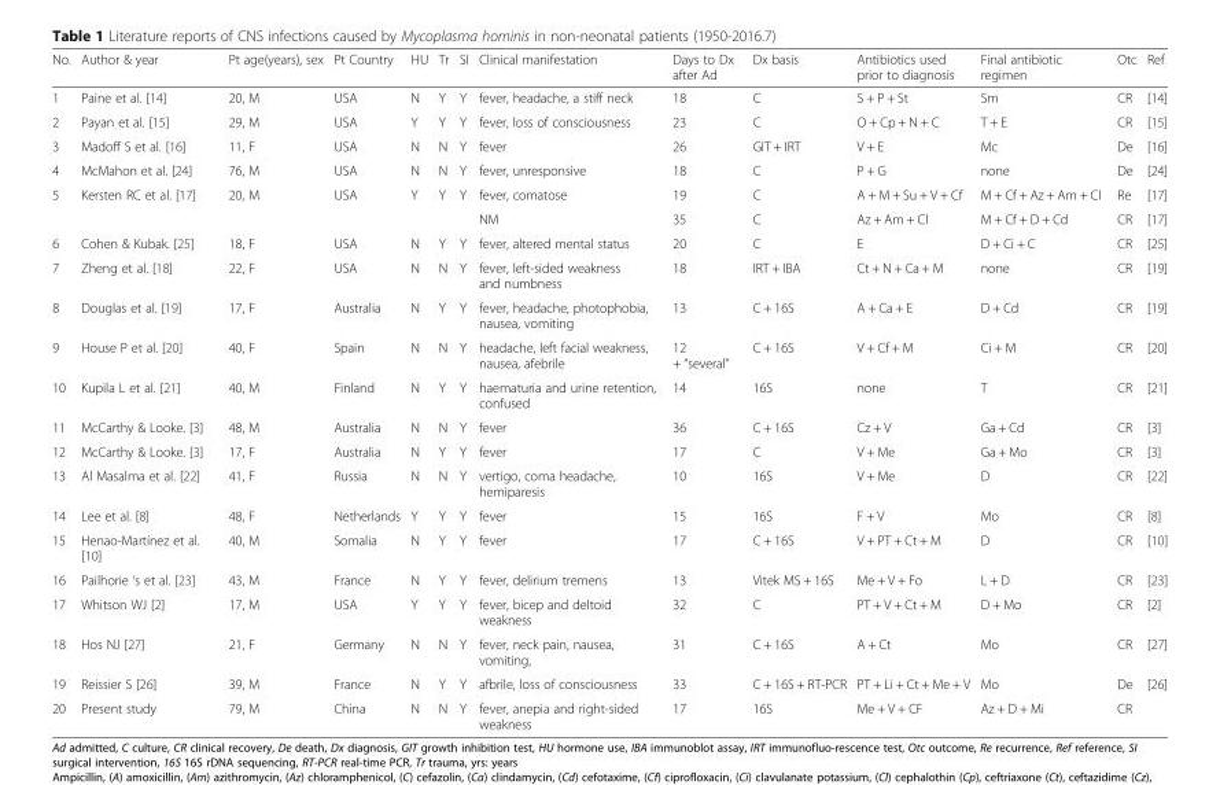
<table><thead><tr><td>No.</td><td>Author &amp; year</td><td>Pt age(years), sex</td><td>Pt Country</td><td>HU</td><td>Tr</td><td>SI</td><td>Clinical manifestation</td><td>Days to Dx after Ad</td><td>Dx basis</td><td>Antibiotics used prior to diagnosis</td><td>Final antibiotic regimen</td><td>Otc</td><td>Ref</td></tr></thead><tbody><tr><td>1</td><td>Paine et al. [14]</td><td>20, M</td><td>USA</td><td>N</td><td>Y</td><td>Y</td><td>fever, headache, a stiff neck</td><td>18</td><td>C</td><td>S + P + St</td><td>Sm</td><td>CR</td><td>[14]</td></tr><tr><td>2</td><td>Payan et al. [15]</td><td>29, M</td><td>USA</td><td>Y</td><td>Y</td><td>Y</td><td>fever, loss of consciousness</td><td>23</td><td>C</td><td>O + Cp + N + C</td><td>T + E</td><td>CR</td><td>[15]</td></tr><tr><td>3</td><td>Madoff S et al. [16]</td><td>11, F</td><td>USA</td><td>N</td><td>N</td><td>Y</td><td>fever</td><td>26</td><td>GIT + IRT</td><td>V + E</td><td>Mc</td><td>De</td><td>[16]</td></tr><tr><td>4</td><td>McMahon et al. [24]</td><td>76, M</td><td>USA</td><td>N</td><td>N</td><td>Y</td><td>fever, unresponsive</td><td>18</td><td>C</td><td>P + G</td><td>none</td><td>De</td><td>[24]</td></tr><tr><td rowspan="2">5</td><td>Kersten RC et al. [17]</td><td>20, M</td><td>USA</td><td>Y</td><td>Y</td><td>Y</td><td>fever, comatose</td><td>19</td><td>C</td><td>A + M + Su + V + Cf</td><td>M + Cf + Az + Am + Cl</td><td>Re</td><td>[17]</td></tr><tr><td></td><td></td><td></td><td></td><td></td><td></td><td>NM</td><td>35</td><td>C</td><td>Az + Am + Cl</td><td>M + Cf + D + Cd</td><td>CR</td><td>[17]</td></tr><tr><td>6</td><td>Cohen &amp; Kubak. [25]</td><td>18, F</td><td>USA</td><td>N</td><td>Y</td><td>Y</td><td>fever, altered mental status</td><td>20</td><td>C</td><td>E</td><td>D + Ci + C</td><td>CR</td><td>[25]</td></tr><tr><td>7</td><td>Zheng et al. [18]</td><td>22, F</td><td>USA</td><td>N</td><td>N</td><td>Y</td><td>fever, left-sided weakness and numbness</td><td>18</td><td>IRT + IBA</td><td>Ct + N + Ca + M</td><td>none</td><td>CR</td><td>[19]</td></tr><tr><td>8</td><td>Douglas et al. [19]</td><td>17, F</td><td>Australia</td><td>N</td><td>Y</td><td>Y</td><td>fever, headache, photophobia, nausea, vomiting</td><td>13</td><td>C + 16S</td><td>A + Ca + E</td><td>D + Cd</td><td>CR</td><td>[19]</td></tr><tr><td>9</td><td>House P et al. [20]</td><td>40, F</td><td>Spain</td><td>N</td><td>N</td><td>Y</td><td>headache, left facial weakness, nausea, afebrile</td><td>12 + “several”</td><td>C + 16S</td><td>V + Cf + M</td><td>Ci + M</td><td>CR</td><td>[20]</td></tr><tr><td>10</td><td>Kupila L et al. [21]</td><td>40, M</td><td>Finland</td><td>N</td><td>Y</td><td>Y</td><td>haematuria and urine retention, confused</td><td>14</td><td>16S</td><td>none</td><td>T</td><td>CR</td><td>[21]</td></tr><tr><td>11</td><td>McCarthy &amp; Looke. [3]</td><td>48, M</td><td>Australia</td><td>N</td><td>N</td><td>Y</td><td>fever</td><td>36</td><td>C + 16S</td><td>Cz + V</td><td>Ga + Cd</td><td>CR</td><td>[3]</td></tr><tr><td>12</td><td>McCarthy &amp; Looke. [3]</td><td>17, F</td><td>Australia</td><td>N</td><td>Y</td><td>Y</td><td>fever</td><td>17</td><td>C</td><td>V + Me</td><td>Ga + Mo</td><td>CR</td><td>[3]</td></tr><tr><td>13</td><td>Al Masalma et al. [22]</td><td>41, F</td><td>Russia</td><td>N</td><td>N</td><td>Y</td><td>vertigo, coma headache, hemiparesis</td><td>10</td><td>16S</td><td>V + Me</td><td>D</td><td>CR</td><td>[22]</td></tr><tr><td>14</td><td>Lee et al. [8]</td><td>48, F</td><td>Netherlands</td><td>Y</td><td>Y</td><td>Y</td><td>fever</td><td>15</td><td>16S</td><td>F + V</td><td>Mo</td><td>CR</td><td>[8]</td></tr><tr><td>15</td><td>Henao-Martínez et al. [10]</td><td>40, M</td><td>Somalia</td><td>N</td><td>Y</td><td>Y</td><td>fever</td><td>17</td><td>C + 16S</td><td>V + PT + Ct + M</td><td>D</td><td>CR</td><td>[10]</td></tr><tr><td>16</td><td>Pailhorie ‘s et al. [23]</td><td>43, M</td><td>France</td><td>N</td><td>Y</td><td>Y</td><td>fever, delirium tremens</td><td>13</td><td>Vitek MS + 16S</td><td>Me + V + Fo</td><td>L + D</td><td>CR</td><td>[23]</td></tr><tr><td>17</td><td>Whitson WJ [2]</td><td>17, M</td><td>USA</td><td>Y</td><td>Y</td><td>Y</td><td>fever, bicep and deltoid weakness</td><td>32</td><td>C</td><td>PT + V + Ct + M</td><td>D + Mo</td><td>CR</td><td>[2]</td></tr><tr><td>18</td><td>Hos NJ [27]</td><td>21, F</td><td>Germany</td><td>N</td><td>N</td><td>Y</td><td>fever, neck pain, nausea, vomiting,</td><td>31</td><td>C + 16S</td><td>A + Ct</td><td>Mo</td><td>CR</td><td>[27]</td></tr><tr><td>19</td><td>Reissier S [26]</td><td>39, M</td><td>France</td><td>N</td><td>Y</td><td>Y</td><td>afbrile, loss of consciousness</td><td>33</td><td>C + 16S + RT-PCR</td><td>PT + Li + Ct + Me + V</td><td>Mo</td><td>De</td><td>[26]</td></tr><tr><td>20</td><td>Present study</td><td>79, M</td><td>China</td><td>N</td><td>N</td><td>Y</td><td>fever, anepia and right-sided weakness</td><td>17</td><td>16S</td><td>Me + V + CF</td><td>Az + D + Mi</td><td>CR</td><td></td></tr></tbody></table>